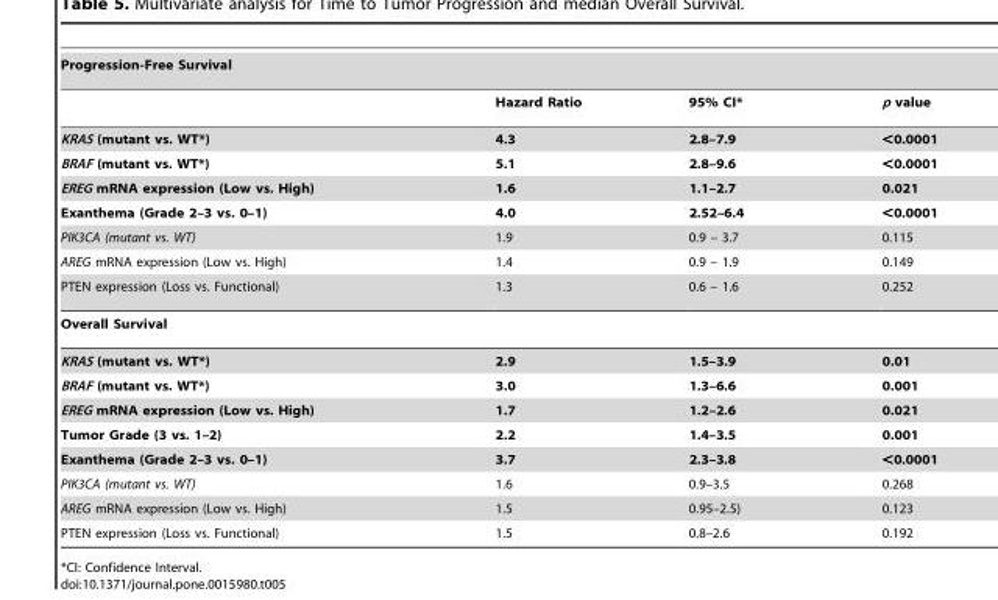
<table><tbody><tr><td colspan="4">Progression-Free Survival</td></tr><tr><td></td><td>Hazard Ratio</td><td>95% CI*</td><td>p value</td></tr><tr><td>KRAS (mutant vs. WT*)</td><td>4.3</td><td>2.8–7.9</td><td>&lt;0.0001</td></tr><tr><td>BRAF (mutant vs. WT*)</td><td>5.1</td><td>2.8–9.6</td><td>&lt;0.0001</td></tr><tr><td>EREG mRNA expression (Low vs. High)</td><td>1.6</td><td>1.1–2.7</td><td>0.021</td></tr><tr><td>Exanthema (Grade 2–3 vs. 0–1)</td><td>4.0</td><td>2.52–6.4</td><td>&lt;0.0001</td></tr><tr><td>PIK3CA (mutant vs. WT)</td><td>1.9</td><td>0.9 – 3.7</td><td>0.115</td></tr><tr><td>AREG mRNA expression (Low vs. High)</td><td>1.4</td><td>0.9 – 1.9</td><td>0.149</td></tr><tr><td>PTEN expression (Loss vs. Functional)</td><td>1.3</td><td>0.6 – 1.6</td><td>0.252</td></tr><tr><td colspan="4">Overall Survival</td></tr><tr><td>KRAS (mutant vs. WT*)</td><td>2.9</td><td>1.5–3.9</td><td>0.01</td></tr><tr><td>BRAF (mutant vs. WT*)</td><td>3.0</td><td>1.3–6.6</td><td>0.001</td></tr><tr><td>EREG mRNA expression (Low vs. High)</td><td>1.7</td><td>1.2–2.6</td><td>0.021</td></tr><tr><td>Tumor Grade (3 vs. 1–2)</td><td>2.2</td><td>1.4–3.5</td><td>0.001</td></tr><tr><td>Exanthema (Grade 2–3 vs. 0–1)</td><td>3.7</td><td>2.3–3.8</td><td>&lt;0.0001</td></tr><tr><td>PIK3CA (mutant vs. WT)</td><td>1.6</td><td>0.9–3.5</td><td>0.268</td></tr><tr><td>AREG mRNA expression (Low vs. High)</td><td>1.5</td><td>0.95–2.5)</td><td>0.123</td></tr><tr><td>PTEN expression (Loss vs. Functional)</td><td>1.5</td><td>0.8–2.6</td><td>0.192</td></tr></tbody></table>